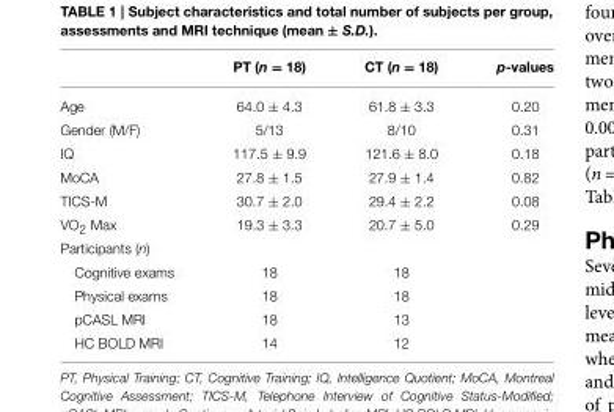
<table><thead><tr><td></td><td>PT (n = 18)</td><td>CT (n = 18)</td><td>p-values</td></tr></thead><tbody><tr><td>Age</td><td>64.0 ± 4.3</td><td>61.8 ± 3.3</td><td>0.20</td></tr><tr><td>Gender (M/F)</td><td>5/13</td><td>8/10</td><td>0.31</td></tr><tr><td>IQ</td><td>117.5 ± 9.9</td><td>121.6 ± 8.0</td><td>0.18</td></tr><tr><td>MoCA</td><td>27.8 ± 1.5</td><td>27.9 ± 1.4</td><td>0.82</td></tr><tr><td>TICS-M</td><td>30.7 ± 2.0</td><td>29.4 ± 2.2</td><td>0.08</td></tr><tr><td>VO2 Max</td><td>19.3 ± 3.3</td><td>20.7 ± 5.0</td><td>0.29</td></tr><tr><td colspan="4">Participants (n)</td></tr><tr><td>Cognitive exams</td><td>18</td><td>18</td><td></td></tr><tr><td>Physical exams</td><td>18</td><td>18</td><td></td></tr><tr><td>pCASL MRI</td><td>18</td><td>13</td><td></td></tr><tr><td>HC BOLD MRI</td><td>14</td><td>12</td><td></td></tr></tbody></table>